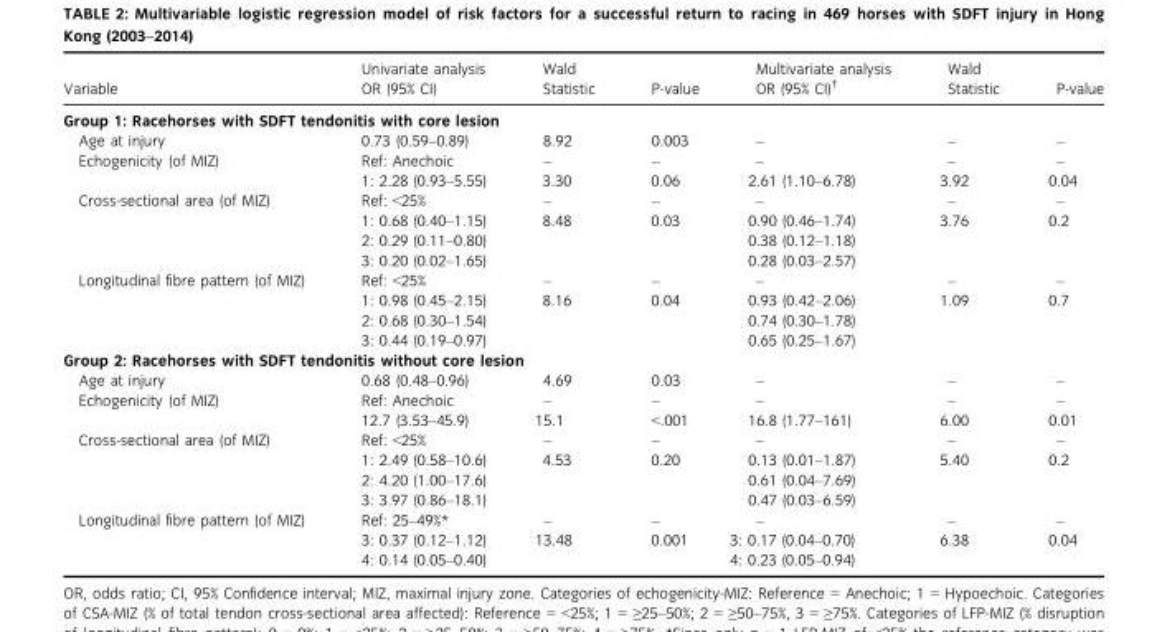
<table><thead><tr><td rowspan="2">Variable</td><td rowspan="2">Univariate analysis OR (95% CI)</td><td rowspan="2">Wald Statistic</td><td rowspan="2">P-value</td><td rowspan="2">Multivariate analysis OR (95% CI)†</td><td rowspan="2">Wald Statistic</td><td rowspan="2">P-value</td></tr><tr></tr></thead><tbody><tr><td colspan="7">Group 1: Racehorses with SDFT tendonitis with core lesion</td></tr><tr><td>Age at injury</td><td>0.73 (0.59–0.89)</td><td>8.92</td><td>0.003</td><td>–</td><td>–</td><td>–</td></tr><tr><td>Echogenicity (of MIZ)</td><td>Ref: Anechoic 1: 2.28 (0.93–5.55)</td><td>– 3.30</td><td>– 0.06</td><td>– 2.61 (1.10–6.78)</td><td>– 3.92</td><td>– 0.04</td></tr><tr><td>Cross-sectional area (of MIZ)</td><td>Ref: &lt;25% 1: 0.68 (0.40–1.15) 2: 0.29 (0.11–0.80) 3: 0.20 (0.02–1.65)</td><td>– 8.48</td><td>– 0.03</td><td>– 0.90 (0.46–1.74) 0.38 (0.12–1.18) 0.28 (0.03–2.57)</td><td>– 3.76</td><td>– 0.2</td></tr><tr><td>Longitudinal fibre pattern (of MIZ)</td><td>Ref: &lt;25% 1: 0.98 (0.45–2.15) 2: 0.68 (0.30–1.54) 3: 0.44 (0.19–0.97)</td><td>– 8.16</td><td>– 0.04</td><td>– 0.93 (0.42–2.06) 0.74 (0.30–1.78) 0.65 (0.25–1.67)</td><td>– 1.09</td><td>– 0.7</td></tr><tr><td colspan="7">Group 2: Racehorses with SDFT tendonitis without core lesion</td></tr><tr><td>Age at injury</td><td>0.68 (0.48–0.96)</td><td>4.69</td><td>0.03</td><td>–</td><td>–</td><td>–</td></tr><tr><td>Echogenicity (of MIZ)</td><td>Ref: Anechoic 12.7 (3.53–45.9)</td><td>– 15.1</td><td>– &lt;.001</td><td>– 16.8 (1.77–161)</td><td>– 6.00</td><td>– 0.01</td></tr><tr><td>Cross-sectional area (of MIZ)</td><td>Ref: &lt;25% 1: 2.49 (0.58–10.6) 2: 4.20 (1.00–17.6) 3: 3.97 (0.86–18.1)</td><td>– 4.53</td><td>– 0.20</td><td>– 0.13 (0.01–1.87) 0.61 (0.04–7.69) 0.47 (0.03–6.59)</td><td>– 5.40</td><td>– 0.2</td></tr><tr><td>Longitudinal fibre pattern (of MIZ)</td><td>Ref: 25–49%* 3: 0.37 (0.12–1.12) 4: 0.14 (0.05–0.40)</td><td>– 13.48</td><td>– 0.001</td><td>– 3: 0.17 (0.04–0.70) 4: 0.23 (0.05–0.94)</td><td>– 6.38</td><td>– 0.04</td></tr></tbody></table>